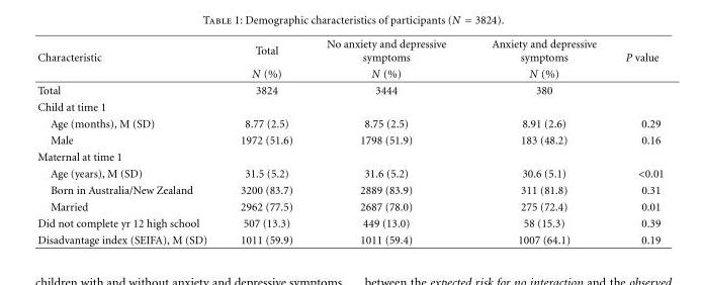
<table><thead><tr><td rowspan="2">Characteristic</td><td rowspan="2">Total N (%)</td><td rowspan="2">No anxiety and depressive symptoms N (%)</td><td rowspan="2">Anxiety and depressive symptoms N (%)</td><td rowspan="2">P value</td></tr><tr></tr></thead><tbody><tr><td>Total</td><td>3824</td><td>3444</td><td>380</td><td></td></tr><tr><td colspan="5">Child at time 1</td></tr><tr><td>Age (months), M (SD)</td><td>8.77 (2.5)</td><td>8.75 (2.5)</td><td>8.91 (2.6)</td><td>0.29</td></tr><tr><td>Male</td><td>1972 (51.6)</td><td>1798 (51.9)</td><td>183 (48.2)</td><td>0.16</td></tr><tr><td colspan="5">Maternal at time 1</td></tr><tr><td>Age (years), M (SD)</td><td>31.5 (5.2)</td><td>31.6 (5.2)</td><td>30.6 (5.1)</td><td>&lt;0.01</td></tr><tr><td>Born in Australia/New Zealand</td><td>3200 (83.7)</td><td>2889 (83.9)</td><td>311 (81.8)</td><td>0.31</td></tr><tr><td>Married</td><td>2962 (77.5)</td><td>2687 (78.0)</td><td>275 (72.4)</td><td>0.01</td></tr><tr><td>Did not complete yr 12 high school</td><td>507 (13.3)</td><td>449 (13.0)</td><td>58 (15.3)</td><td>0.39</td></tr><tr><td>Disadvantage index (SEIFA), M (SD)</td><td>1011 (59.9)</td><td>1011 (59.4)</td><td>1007 (64.1)</td><td>0.19</td></tr></tbody></table>